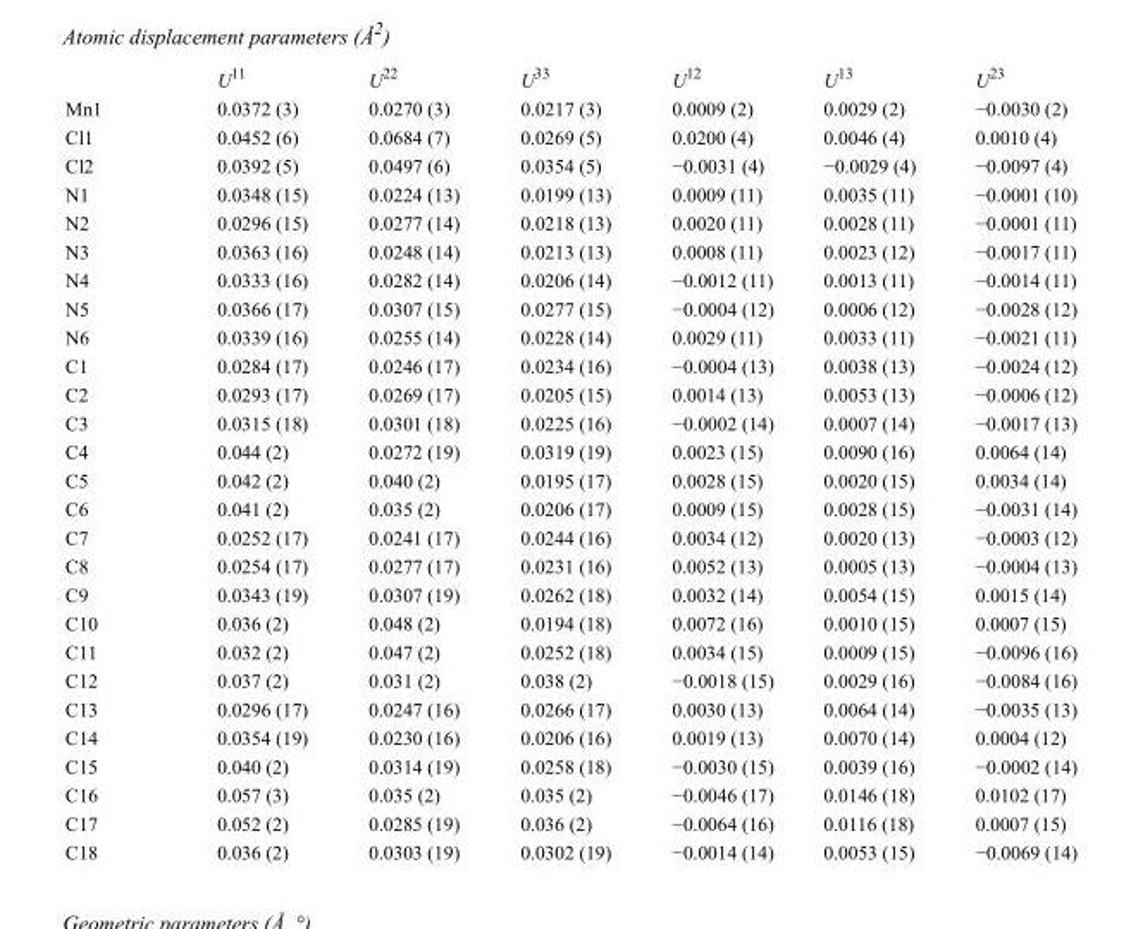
<table><thead><tr><td></td><td>U<sup>11</sup></td><td>U<sup>22</sup></td><td>U<sup>33</sup></td><td>U<sup>12</sup></td><td>U<sup>13</sup></td><td>U<sup>23</sup></td></tr></thead><tbody><tr><td>Mn1</td><td>0.0372 (3)</td><td>0.0270 (3)</td><td>0.0217 (3)</td><td>0.0009 (2)</td><td>0.0029 (2)</td><td>−0.0030 (2)</td></tr><tr><td>Cl1</td><td>0.0452 (6)</td><td>0.0684 (7)</td><td>0.0269 (5)</td><td>0.0200 (4)</td><td>0.0046 (4)</td><td>0.0010 (4)</td></tr><tr><td>Cl2</td><td>0.0392 (5)</td><td>0.0497 (6)</td><td>0.0354 (5)</td><td>−0.0031 (4)</td><td>−0.0029 (4)</td><td>−0.0097 (4)</td></tr><tr><td>N1</td><td>0.0348 (15)</td><td>0.0224 (13)</td><td>0.0199 (13)</td><td>0.0009 (11)</td><td>0.0035 (11)</td><td>−0.0001 (10)</td></tr><tr><td>N2</td><td>0.0296 (15)</td><td>0.0277 (14)</td><td>0.0218 (13)</td><td>0.0020 (11)</td><td>0.0028 (11)</td><td>−0.0001 (11)</td></tr><tr><td>N3</td><td>0.0363 (16)</td><td>0.0248 (14)</td><td>0.0213 (13)</td><td>0.0008 (11)</td><td>0.0023 (12)</td><td>−0.0017 (11)</td></tr><tr><td>N4</td><td>0.0333 (16)</td><td>0.0282 (14)</td><td>0.0206 (14)</td><td>−0.0012 (11)</td><td>0.0013 (11)</td><td>−0.0014 (11)</td></tr><tr><td>N5</td><td>0.0366 (17)</td><td>0.0307 (15)</td><td>0.0277 (15)</td><td>−0.0004 (12)</td><td>0.0006 (12)</td><td>−0.0028 (12)</td></tr><tr><td>N6</td><td>0.0339 (16)</td><td>0.0255 (14)</td><td>0.0228 (14)</td><td>0.0029 (11)</td><td>0.0033 (11)</td><td>−0.0021 (11)</td></tr><tr><td>C1</td><td>0.0284 (17)</td><td>0.0246 (17)</td><td>0.0234 (16)</td><td>−0.0004 (13)</td><td>0.0038 (13)</td><td>−0.0024 (12)</td></tr><tr><td>C2</td><td>0.0293 (17)</td><td>0.0269 (17)</td><td>0.0205 (15)</td><td>0.0014 (13)</td><td>0.0053 (13)</td><td>−0.0006 (12)</td></tr><tr><td>C3</td><td>0.0315 (18)</td><td>0.0301 (18)</td><td>0.0225 (16)</td><td>−0.0002 (14)</td><td>0.0007 (14)</td><td>−0.0017 (13)</td></tr><tr><td>C4</td><td>0.044 (2)</td><td>0.0272 (19)</td><td>0.0319 (19)</td><td>0.0023 (15)</td><td>0.0090 (16)</td><td>0.0064 (14)</td></tr><tr><td>C5</td><td>0.042 (2)</td><td>0.040 (2)</td><td>0.0195 (17)</td><td>0.0028 (15)</td><td>0.0020 (15)</td><td>0.0034 (14)</td></tr><tr><td>C6</td><td>0.041 (2)</td><td>0.035 (2)</td><td>0.0206 (17)</td><td>0.0009 (15)</td><td>0.0028 (15)</td><td>−0.0031 (14)</td></tr><tr><td>C7</td><td>0.0252 (17)</td><td>0.0241 (17)</td><td>0.0244 (16)</td><td>0.0034 (12)</td><td>0.0020 (13)</td><td>−0.0003 (12)</td></tr><tr><td>C8</td><td>0.0254 (17)</td><td>0.0277 (17)</td><td>0.0231 (16)</td><td>0.0052 (13)</td><td>0.0005 (13)</td><td>−0.0004 (13)</td></tr><tr><td>C9</td><td>0.0343 (19)</td><td>0.0307 (19)</td><td>0.0262 (18)</td><td>0.0032 (14)</td><td>0.0054 (15)</td><td>0.0015 (14)</td></tr><tr><td>C10</td><td>0.036 (2)</td><td>0.048 (2)</td><td>0.0194 (18)</td><td>0.0072 (16)</td><td>0.0010 (15)</td><td>0.0007 (15)</td></tr><tr><td>C11</td><td>0.032 (2)</td><td>0.047 (2)</td><td>0.0252 (18)</td><td>0.0034 (15)</td><td>0.0009 (15)</td><td>−0.0096 (16)</td></tr><tr><td>C12</td><td>0.037 (2)</td><td>0.031 (2)</td><td>0.038 (2)</td><td>−0.0018 (15)</td><td>0.0029 (16)</td><td>−0.0084 (16)</td></tr><tr><td>C13</td><td>0.0296 (17)</td><td>0.0247 (16)</td><td>0.0266 (17)</td><td>0.0030 (13)</td><td>0.0064 (14)</td><td>−0.0035 (13)</td></tr><tr><td>C14</td><td>0.0354 (19)</td><td>0.0230 (16)</td><td>0.0206 (16)</td><td>0.0019 (13)</td><td>0.0070 (14)</td><td>0.0004 (12)</td></tr><tr><td>C15</td><td>0.040 (2)</td><td>0.0314 (19)</td><td>0.0258 (18)</td><td>−0.0030 (15)</td><td>0.0039 (16)</td><td>−0.0002 (14)</td></tr><tr><td>C16</td><td>0.057 (3)</td><td>0.035 (2)</td><td>0.035 (2)</td><td>−0.0046 (17)</td><td>0.0146 (18)</td><td>0.0102 (17)</td></tr><tr><td>C17</td><td>0.052 (2)</td><td>0.0285 (19)</td><td>0.036 (2)</td><td>−0.0064 (16)</td><td>0.0116 (18)</td><td>0.0007 (15)</td></tr><tr><td>C18</td><td>0.036 (2)</td><td>0.0303 (19)</td><td>0.0302 (19)</td><td>−0.0014 (14)</td><td>0.0053 (15)</td><td>−0.0069 (14)</td></tr></tbody></table>